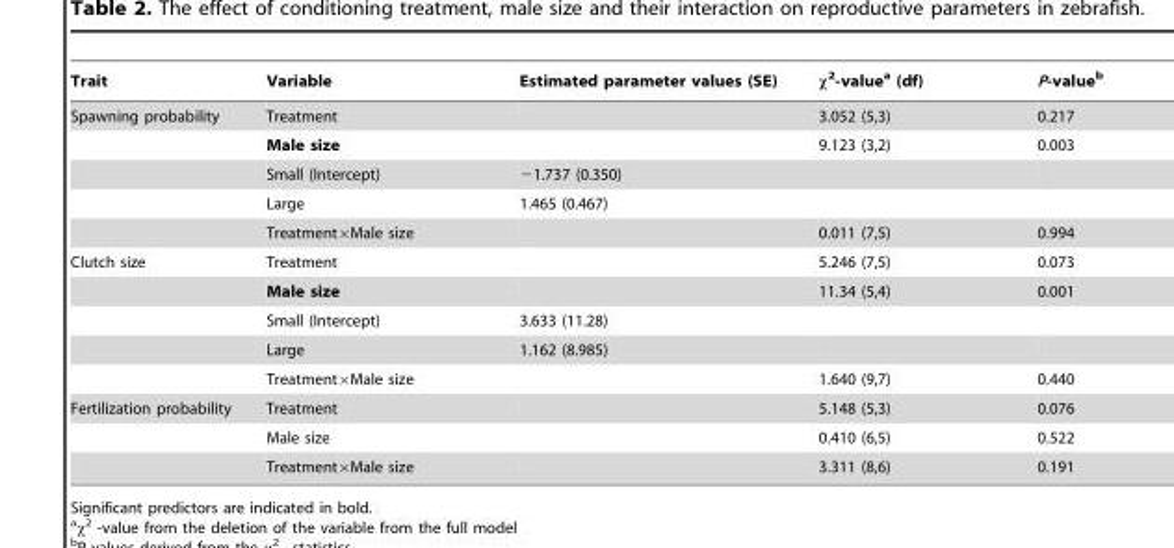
<table><thead><tr><td>Trait</td><td>Variable</td><td>Estimated parameter values (SE)</td><td>x2-valuea (df)</td><td>P-value<sup>b</sup></td></tr></thead><tbody><tr><td rowspan="5">Spawning probability</td><td>Treatment</td><td></td><td>3.052 (5,3)</td><td>0.217</td></tr><tr><td>Male size</td><td></td><td>9.123 (3,2)</td><td>0.003</td></tr><tr><td>Small (Intercept)</td><td>−1.737 (0.350)</td><td></td><td></td></tr><tr><td>Large</td><td>1.465 (0.467)</td><td></td><td></td></tr><tr><td>Treatment×Male size</td><td></td><td>0.011 (7,5)</td><td>0.994</td></tr><tr><td rowspan="5">Clutch size</td><td>Treatment</td><td></td><td>5.246 (7,5)</td><td>0.073</td></tr><tr><td>Male size</td><td></td><td>11.34 (5,4)</td><td>0.001</td></tr><tr><td>Small (Intercept)</td><td>3.633 (11.28)</td><td></td><td></td></tr><tr><td>Large</td><td>1.162 (8.985)</td><td></td><td></td></tr><tr><td>Treatment×Male size</td><td></td><td>1.640 (9,7)</td><td>0.440</td></tr><tr><td rowspan="3">Fertilization probability</td><td>Treatment</td><td></td><td>5.148 (5,3)</td><td>0.076</td></tr><tr><td>Male size</td><td></td><td>0.410 (6,5)</td><td>0.522</td></tr><tr><td>Treatment×Male size</td><td></td><td>3.311 (8,6)</td><td>0.191</td></tr></tbody></table>